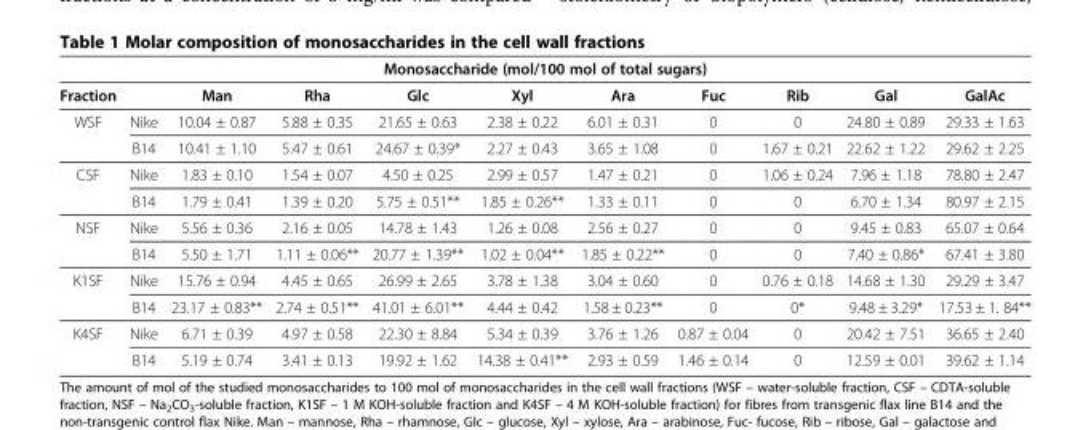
<table><thead><tr><td colspan="11">Monosaccharide (mol/100 mol of total sugars)</td></tr><tr><td>Fraction</td><td></td><td>Man</td><td>Rha</td><td>Glc</td><td>Xyl</td><td>Ara</td><td>Fuc</td><td>Rib</td><td>Gal</td><td>GalAc</td></tr></thead><tbody><tr><td rowspan="2">WSF</td><td>Nike</td><td>10.04 ± 0.87</td><td>5.88 ± 0.35</td><td>21.65 ± 0.63</td><td>2.38 ± 0.22</td><td>6.01 ± 0.31</td><td>0</td><td>0</td><td>24.80 ± 0.89</td><td>29.33 ± 1.63</td></tr><tr><td>B14</td><td>10.41 ± 1.10</td><td>5.47 ± 0.61</td><td>24.67 ± 0.39*</td><td>2.27 ± 0.43</td><td>3.65 ± 1.08</td><td>0</td><td>1.67 ± 0.21</td><td>22.62 ± 1.22</td><td>29.62 ± 2.25</td></tr><tr><td rowspan="2">CSF</td><td>Nike</td><td>1.83 ± 0.10</td><td>1.54 ± 0.07</td><td>4.50 ± 0.25</td><td>2.99 ± 0.57</td><td>1.47 ± 0.21</td><td>0</td><td>1.06 ± 0.24</td><td>7.96 ± 1.18</td><td>78.80 ± 2.47</td></tr><tr><td>B14</td><td>1.79 ± 0.41</td><td>1.39 ± 0.20</td><td>5.75 ± 0.51**</td><td>1.85 ± 0.26**</td><td>1.33 ± 0.11</td><td>0</td><td>0</td><td>6.70 ± 1.34</td><td>80.97 ± 2.15</td></tr><tr><td rowspan="2">NSF</td><td>Nike</td><td>5.56 ± 0.36</td><td>2.16 ± 0.05</td><td>14.78 ± 1.43</td><td>1.26 ± 0.08</td><td>2.56 ± 0.27</td><td>0</td><td>0</td><td>9.45 ± 0.83</td><td>65.07 ± 0.64</td></tr><tr><td>B14</td><td>5.50 ± 1.71</td><td>1.11 ± 0.06**</td><td>20.77 ± 1.39**</td><td>1.02 ± 0.04**</td><td>1.85 ± 0.22**</td><td>0</td><td>0</td><td>7.40 ± 0.86*</td><td>67.41 ± 3.80</td></tr><tr><td rowspan="2">K1SF</td><td>Nike</td><td>15.76 ± 0.94</td><td>4.45 ± 0.65</td><td>26.99 ± 2.65</td><td>3.78 ± 1.38</td><td>3.04 ± 0.60</td><td>0</td><td>0.76 ± 0.18</td><td>14.68 ± 1.30</td><td>29.29 ± 3.47</td></tr><tr><td>B14</td><td>23.17 ± 0.83**</td><td>2.74 ± 0.51**</td><td>41.01 ± 6.01**</td><td>4.44 ± 0.42</td><td>1.58 ± 0.23**</td><td>0</td><td>0*</td><td>9.48 ± 3.29*</td><td>17.53 ± 1. 84**</td></tr><tr><td rowspan="2">K4SF</td><td>Nike</td><td>6.71 ± 0.39</td><td>4.97 ± 0.58</td><td>22.30 ± 8.84</td><td>5.34 ± 0.39</td><td>3.76 ± 1.26</td><td>0.87 ± 0.04</td><td>0</td><td>20.42 ± 7.51</td><td>36.65 ± 2.40</td></tr><tr><td>B14</td><td>5.19 ± 0.74</td><td>3.41 ± 0.13</td><td>19.92 ± 1.62</td><td>14.38 ± 0.41**</td><td>2.93 ± 0.59</td><td>1.46 ± 0.14</td><td>0</td><td>12.59 ± 0.01</td><td>39.62 ± 1.14</td></tr></tbody></table>